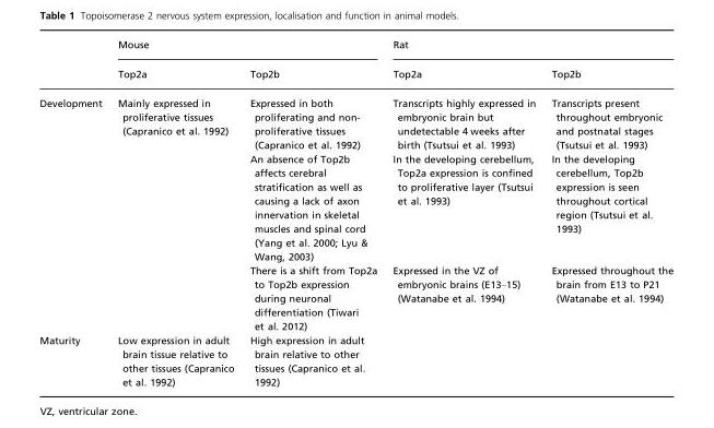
<table><thead><tr><td rowspan="2"></td><td colspan="2">Mouse</td><td colspan="2">Rat</td></tr><tr><td>Top2a</td><td>Top2b</td><td>Top2a</td><td>Top2b</td></tr></thead><tbody><tr><td rowspan="3">Development</td><td rowspan="3">Mainly expressed in proliferative tissues (Capranico et al. 1992)</td><td>Expressed in both proliferating and non- proliferative tissues (Capranico et al. 1992)</td><td>Transcripts highly expressed in embryonic brain but undetectable 4 weeks after birth (Tsutsui et al. 1993)</td><td>Transcripts present throughout embryonic and postnatal stages (Tsutsui et al. 1993)</td></tr><tr><td>An absence of Top2b affects cerebral stratification as well as causing a lack of axon innervation in skeletal muscles and spinal cord (Yang et al. 2000; Lyu &amp; Wang, 2003)</td><td>In the developing cerebellum, Top2a expression is confined to proliferative layer (Tsutsui et al. 1993)</td><td>In the developing cerebellum, Top2b expression is seen throughout cortical region (Tsutsui et al. 1993)</td></tr><tr><td>There is a shift from Top2a to Top2b expression during neuronal differentiation (Tiwari et al. 2012)</td><td>Expressed in the VZ of embryonic brains (E13–15) (Watanabe et al. 1994)</td><td>Expressed throughout the brain from E13 to P21 (Watanabe et al. 1994)</td></tr><tr><td>Maturity</td><td>Low expression in adult brain tissue relative to other tissues (Capranico et al. 1992)</td><td>High expression in adult brain relative to other tissues (Capranico et al. 1992)</td><td></td><td></td></tr></tbody></table>